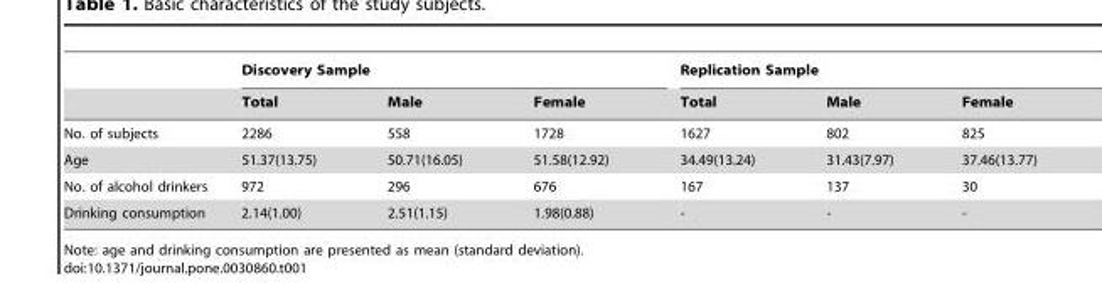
<table><thead><tr><td rowspan="2"></td><td colspan="3">Discovery Sample</td><td colspan="3">Replication Sample</td></tr><tr><td>Total</td><td>Male</td><td>Female</td><td>Total</td><td>Male</td><td>Female</td></tr></thead><tbody><tr><td>No. of subjects</td><td>2286</td><td>558</td><td>1728</td><td>1627</td><td>802</td><td>825</td></tr><tr><td>Age</td><td>51.37(13.75)</td><td>50.71(16.05)</td><td>51.58(12.92)</td><td>34.49(13.24)</td><td>31.43(7.97)</td><td>37.46(13.77)</td></tr><tr><td>No. of alcohol drinkers</td><td>972</td><td>296</td><td>676</td><td>167</td><td>137</td><td>30</td></tr><tr><td>Drinking consumption</td><td>2.14(1.00)</td><td>2.51(1.15)</td><td>1.98(0.88)</td><td>-</td><td>-</td><td>-</td></tr></tbody></table>